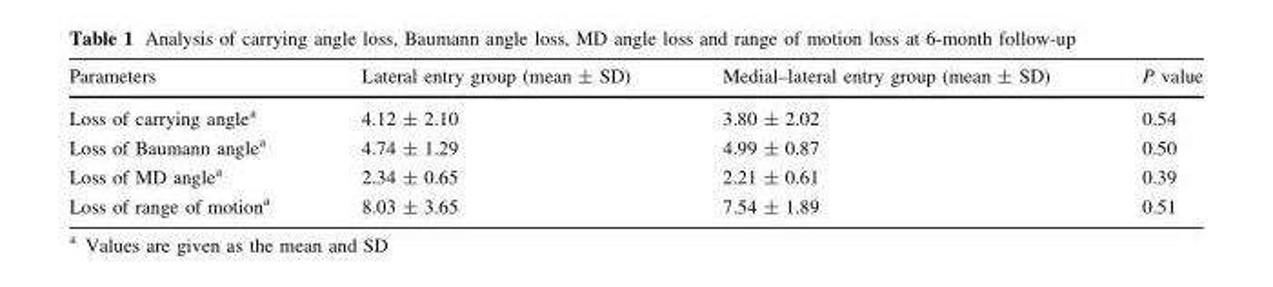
<table><thead><tr><td>Parameters</td><td>Lateral entry group (mean ± SD)</td><td>Medial–lateral entry group (mean ± SD)</td><td>P value</td></tr></thead><tbody><tr><td>Loss of carrying angle<sup>a</sup></td><td>4.12 ± 2.10</td><td>3.80 ± 2.02</td><td>0.54</td></tr><tr><td>Loss of Baumann angle<sup>a</sup></td><td>4.74 ± 1.29</td><td>4.99 ± 0.87</td><td>0.50</td></tr><tr><td>Loss of MD angle<sup>a</sup></td><td>2.34 ± 0.65</td><td>2.21 ± 0.61</td><td>0.39</td></tr><tr><td>Loss of range of motion<sup>a</sup></td><td>8.03 ± 3.65</td><td>7.54 ± 1.89</td><td>0.51</td></tr></tbody></table>